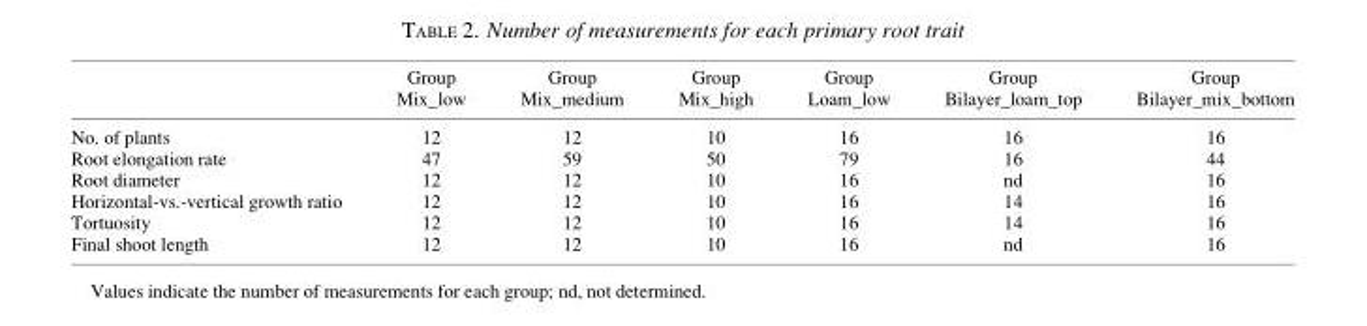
<table><thead><tr><td></td><td>Group Mix_low</td><td>Group Mix_medium</td><td>Group Mix_high</td><td>Group Loam_low</td><td>Group Bilayer_loam_top</td><td>Group Bilayer_mix_bottom</td></tr></thead><tbody><tr><td>No. of plants</td><td>12</td><td>12</td><td>10</td><td>16</td><td>16</td><td>16</td></tr><tr><td>Root elongation rate</td><td>47</td><td>59</td><td>50</td><td>79</td><td>16</td><td>44</td></tr><tr><td>Root diameter</td><td>12</td><td>12</td><td>10</td><td>16</td><td>nd</td><td>16</td></tr><tr><td>Horizontal-vs.-vertical growth ratio</td><td>12</td><td>12</td><td>10</td><td>16</td><td>14</td><td>16</td></tr><tr><td>Tortuosity</td><td>12</td><td>12</td><td>10</td><td>16</td><td>14</td><td>16</td></tr><tr><td>Final shoot length</td><td>12</td><td>12</td><td>10</td><td>16</td><td>nd</td><td>16</td></tr></tbody></table>